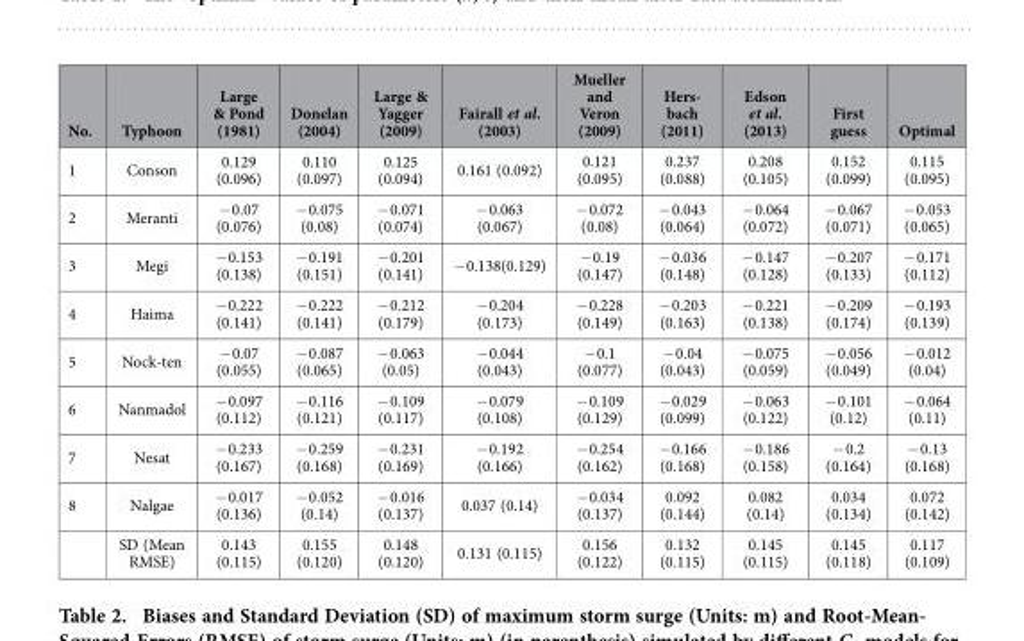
<table><thead><tr><td>No.</td><td>Typhoon</td><td>Large &amp; Pond (1981)</td><td>Donelan (2004)</td><td>Large &amp; Yagger (2009)</td><td>Fairall et al. (2003)</td><td>Mueller and Veron (2009)</td><td>Hers- bach (2011)</td><td>Edson et al. (2013)</td><td>First guess</td><td>Optimal</td></tr></thead><tbody><tr><td>1</td><td>Conson</td><td>0.129 (0.096)</td><td>0.110 (0.097)</td><td>0.125 (0.094)</td><td>0.161 (0.092)</td><td>0.121 (0.095)</td><td>0.237 (0.088)</td><td>0.208 (0.105)</td><td>0.152 (0.099)</td><td>0.115 (0.095)</td></tr><tr><td>2</td><td>Meranti</td><td>− 0.07 (0.076)</td><td>− 0.075 (0.08)</td><td>− 0.071 (0.074)</td><td>− 0.063 (0.067)</td><td>− 0.072 (0.08)</td><td>− 0.043 (0.064)</td><td>− 0.064 (0.072)</td><td>− 0.067 (0.071)</td><td>− 0.053 (0.065)</td></tr><tr><td>3</td><td>Megi</td><td>− 0.153 (0.138)</td><td>− 0.191 (0.151)</td><td>− 0.201 (0.141)</td><td>− 0.138(0.129)</td><td>− 0.19 (0.147)</td><td>− 0.036 (0.148)</td><td>− 0.147 (0.128)</td><td>− 0.207 (0.133)</td><td>− 0.171 (0.112)</td></tr><tr><td>4</td><td>Haima</td><td>− 0.222 (0.141)</td><td>− 0.222 (0.141)</td><td>− 0.212 (0.179)</td><td>− 0.204 (0.173)</td><td>− 0.228 (0.149)</td><td>− 0.203 (0.163)</td><td>− 0.221 (0.138)</td><td>− 0.209 (0.174)</td><td>− 0.193 (0.139)</td></tr><tr><td>5</td><td>Nock-ten</td><td>− 0.07 (0.055)</td><td>− 0.087 (0.065)</td><td>− 0.063 (0.05)</td><td>− 0.044 (0.043)</td><td>− 0.1 (0.077)</td><td>− 0.04 (0.043)</td><td>− 0.075 (0.059)</td><td>− 0.056 (0.049)</td><td>− 0.012 (0.04)</td></tr><tr><td>6</td><td>Nanmadol</td><td>− 0.097 (0.112)</td><td>− 0.116 (0.121)</td><td>− 0.109 (0.117)</td><td>− 0.079 (0.108)</td><td>− 0.109 (0.129)</td><td>− 0.029 (0.099)</td><td>− 0.063 (0.122)</td><td>− 0.101 (0.12)</td><td>− 0.064 (0.11)</td></tr><tr><td>7</td><td>Nesat</td><td>− 0.233 (0.167)</td><td>− 0.259 (0.168)</td><td>− 0.231 (0.169)</td><td>− 0.192 (0.166)</td><td>− 0.254 (0.162)</td><td>− 0.166 (0.168)</td><td>− 0.186 (0.158)</td><td>− 0.2 (0.164)</td><td>− 0.13 (0.168)</td></tr><tr><td rowspan="2">8</td><td>Nalgae</td><td>− 0.017 (0.136)</td><td>− 0.052 (0.14)</td><td>− 0.016 (0.137)</td><td>0.037 (0.14)</td><td>− 0.034 (0.137)</td><td>0.092 (0.144)</td><td>0.082 (0.14)</td><td>0.034 (0.134)</td><td>0.072 (0.142)</td></tr><tr><td>SD (Mean RMSE)</td><td>0.143 (0.115)</td><td>0.155 (0.120)</td><td>0.148 (0.120)</td><td>0.131 (0.115)</td><td>0.156 (0.122)</td><td>0.132 (0.115)</td><td>0.145 (0.115)</td><td>0.145 (0.118)</td><td>0.117 (0.109)</td></tr></tbody></table>